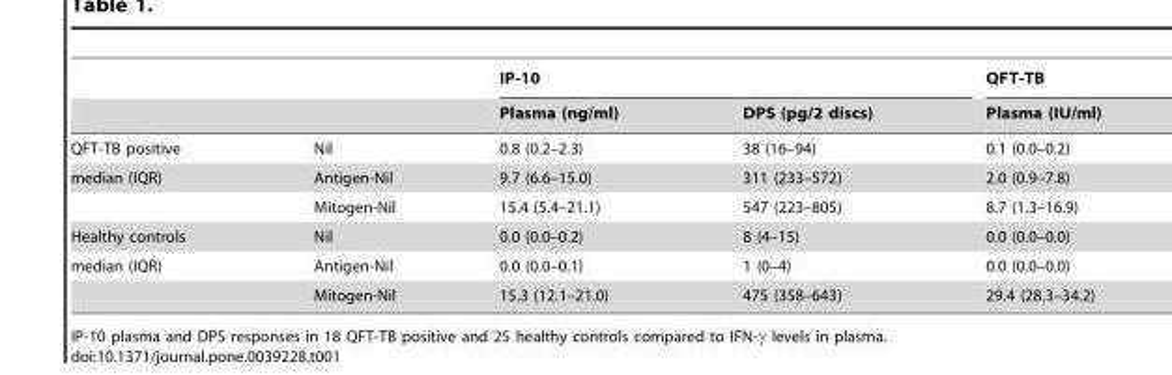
<table><thead><tr><td rowspan="2"></td><td rowspan="2"></td><td colspan="2">IP-10</td><td rowspan="2">QFT-TB Plasma (IU/ml)</td></tr><tr><td>Plasma (ng/ml)</td><td>DPS (pg/2 discs)</td></tr></thead><tbody><tr><td>QFT-TB positive</td><td>Nil</td><td>0.8 (0.2–2.3)</td><td>38 (16–94)</td><td>0.1 (0.0–0.2)</td></tr><tr><td rowspan="2">median (IQR)</td><td>Antigen-Nil</td><td>9.7 (6.6–15.0)</td><td>311 (233–572)</td><td>2.0 (0.9–7.8)</td></tr><tr><td>Mitogen-Nil</td><td>15.4 (5.4–21.1)</td><td>547 (223–805)</td><td>8.7 (1.3–16.9)</td></tr><tr><td>Healthy controls</td><td>Nil</td><td>0.0 (0.0–0.2)</td><td>8 (4–15)</td><td>0.0 (0.0–0.0)</td></tr><tr><td rowspan="2">median (IQR)</td><td>Antigen-Nil</td><td>0.0 (0.0–0.1)</td><td>1 (0–4)</td><td>0.0 (0.0–0.0)</td></tr><tr><td>Mitogen-Nil</td><td>15.3 (12.1–21.0)</td><td>475 (358–643)</td><td>29.4 (28.3–34.2)</td></tr></tbody></table>